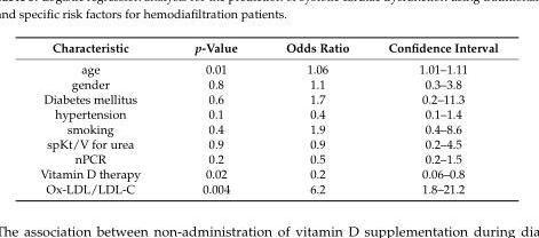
<table><thead><tr><td>Characteristic</td><td>p-Value</td><td>Odds Ratio</td><td>Confidence Interval</td></tr></thead><tbody><tr><td>age</td><td>0.01</td><td>1.06</td><td>1.01–1.11</td></tr><tr><td>gender</td><td>0.8</td><td>1.1</td><td>0.3–3.8</td></tr><tr><td>Diabetes mellitus</td><td>0.6</td><td>1.7</td><td>0.2–11.3</td></tr><tr><td>hypertension</td><td>0.1</td><td>0.4</td><td>0.1–1.4</td></tr><tr><td>smoking</td><td>0.4</td><td>1.9</td><td>0.4–8.6</td></tr><tr><td>spKt/V for urea</td><td>0.9</td><td>0.9</td><td>0.2–4.5</td></tr><tr><td>nPCR</td><td>0.2</td><td>0.5</td><td>0.2–1.5</td></tr><tr><td>Vitamin D therapy</td><td>0.02</td><td>0.2</td><td>0.06–0.8</td></tr><tr><td>Ox-LDL/LDL-C</td><td>0.004</td><td>6.2</td><td>1.8–21.2</td></tr></tbody></table>